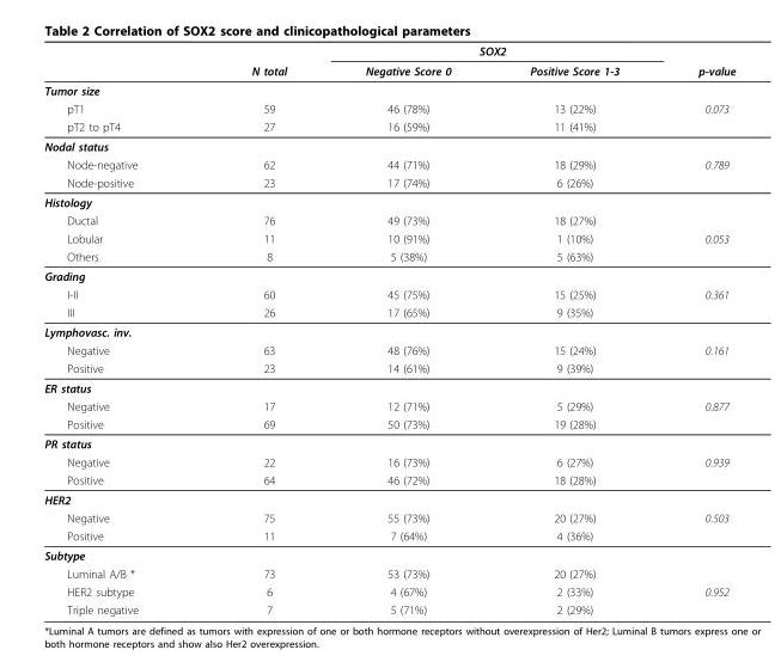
<table><thead><tr><td rowspan="2"></td><td rowspan="2">N total</td><td colspan="2">SOX2</td><td rowspan="2">p-value</td></tr><tr><td>Negative Score 0</td><td>Positive Score 1-3</td></tr></thead><tbody><tr><td colspan="5">Tumor size</td></tr><tr><td>pT1</td><td>59</td><td>46 (78%)</td><td>13 (22%)</td><td>0.073</td></tr><tr><td>pT2 to pT4</td><td>27</td><td>16 (59%)</td><td>11 (41%)</td><td></td></tr><tr><td colspan="5">Nodal status</td></tr><tr><td>Node-negative</td><td>62</td><td>44 (71%)</td><td>18 (29%)</td><td>0.789</td></tr><tr><td>Node-positive</td><td>23</td><td>17 (74%)</td><td>6 (26%)</td><td></td></tr><tr><td colspan="5">Histology</td></tr><tr><td>Ductal</td><td>76</td><td>49 (73%)</td><td>18 (27%)</td><td></td></tr><tr><td>Lobular</td><td>11</td><td>10 (91%)</td><td>1 (10%)</td><td>0.053</td></tr><tr><td>Others</td><td>8</td><td>5 (38%)</td><td>5 (63%)</td><td></td></tr><tr><td colspan="5">Grading</td></tr><tr><td>I-II</td><td>60</td><td>45 (75%)</td><td>15 (25%)</td><td>0.361</td></tr><tr><td>III</td><td>26</td><td>17 (65%)</td><td>9 (35%)</td><td></td></tr><tr><td colspan="5">Lymphovasc. inv.</td></tr><tr><td>Negative</td><td>63</td><td>48 (76%)</td><td>15 (24%)</td><td>0.161</td></tr><tr><td>Positive</td><td>23</td><td>14 (61%)</td><td>9 (39%)</td><td></td></tr><tr><td colspan="5">ER status</td></tr><tr><td>Negative</td><td>17</td><td>12 (71%)</td><td>5 (29%)</td><td>0.877</td></tr><tr><td>Positive</td><td>69</td><td>50 (73%)</td><td>19 (28%)</td><td></td></tr><tr><td colspan="5">PR status</td></tr><tr><td>Negative</td><td>22</td><td>16 (73%)</td><td>6 (27%)</td><td>0.939</td></tr><tr><td>Positive</td><td>64</td><td>46 (72%)</td><td>18 (28%)</td><td></td></tr><tr><td colspan="5">HER2</td></tr><tr><td>Negative</td><td>75</td><td>55 (73%)</td><td>20 (27%)</td><td>0.503</td></tr><tr><td>Positive</td><td>11</td><td>7 (64%)</td><td>4 (36%)</td><td></td></tr><tr><td colspan="5">Subtype</td></tr><tr><td>Luminal A/B *</td><td>73</td><td>53 (73%)</td><td>20 (27%)</td><td></td></tr><tr><td>HER2 subtype</td><td>6</td><td>4 (67%)</td><td>2 (33%)</td><td>0.952</td></tr><tr><td>Triple negative</td><td>7</td><td>5 (71%)</td><td>2 (29%)</td><td></td></tr></tbody></table>